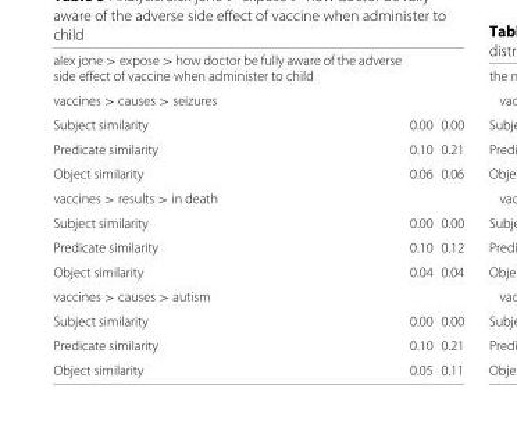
<table><tbody><tr><td colspan="3">alex jone &gt; expose &gt; how doctor be fully aware of the adverse side effect of vaccine when administer to child</td></tr><tr><td colspan="3">vaccines &gt; causes &gt; seizures</td></tr><tr><td>Subject similarity</td><td>0.00</td><td>0.00</td></tr><tr><td>Predicate similarity</td><td>0.10</td><td>0.21</td></tr><tr><td>Object similarity</td><td>0.06</td><td>0.06</td></tr><tr><td colspan="3">vaccines &gt; results &gt; in death</td></tr><tr><td>Subject similarity</td><td>0.00</td><td>0.00</td></tr><tr><td>Predicate similarity</td><td>0.10</td><td>0.12</td></tr><tr><td>Object similarity</td><td>0.04</td><td>0.04</td></tr><tr><td colspan="3">vaccines &gt; causes &gt; autism</td></tr><tr><td>Subject similarity</td><td>0.00</td><td>0.00</td></tr><tr><td>Predicate similarity</td><td>0.10</td><td>0.21</td></tr><tr><td>Object similarity</td><td>0.05</td><td>0.11</td></tr></tbody></table>